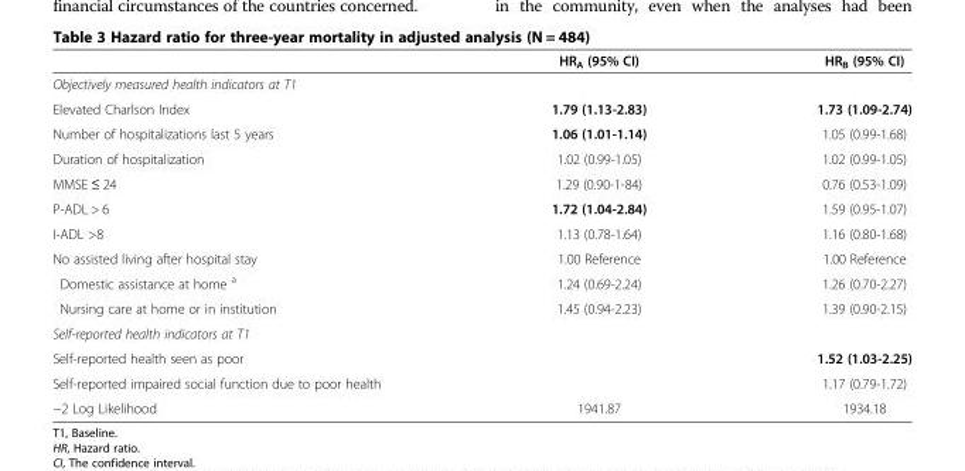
<table><thead><tr><td></td><td>HR<sub>A</sub> (95% CI)</td><td>HR<sub>B</sub> (95% CI)</td></tr></thead><tbody><tr><td colspan="3">Objectively measured health indicators at T1</td></tr><tr><td>Elevated Charlson Index</td><td>1.79 (1.13-2.83)</td><td>1.73 (1.09-2.74)</td></tr><tr><td>Number of hospitalizations last 5 years</td><td>1.06 (1.01-1.14)</td><td>1.05 (0.99-1.68)</td></tr><tr><td>Duration of hospitalization</td><td>1.02 (0.99-1.05)</td><td>1.02 (0.99-1.05)</td></tr><tr><td>MMSE ≤ 24</td><td>1.29 (0.90-1-84)</td><td>0.76 (0.53-1.09)</td></tr><tr><td>P-ADL &gt; 6</td><td>1.72 (1.04-2.84)</td><td>1.59 (0.95-1.07)</td></tr><tr><td>I-ADL &gt;8</td><td>1.13 (0.78-1.64)</td><td>1.16 (0.80-1.68)</td></tr><tr><td>No assisted living after hospital stay</td><td>1.00 Reference</td><td>1.00 Reference</td></tr><tr><td>Domestic assistance at home <sup>a</sup></td><td>1.24 (0.69-2.24)</td><td>1.26 (0.70-2.27)</td></tr><tr><td>Nursing care at home or in institution</td><td>1.45 (0.94-2.23)</td><td>1.39 (0.90-2.15)</td></tr><tr><td colspan="3">Self-reported health indicators at T1</td></tr><tr><td>Self-reported health seen as poor</td><td></td><td>1.52 (1.03-2.25)</td></tr><tr><td>Self-reported impaired social function due to poor health</td><td></td><td>1.17 (0.79-1.72)</td></tr><tr><td>−2 Log Likelihood</td><td>1941.87</td><td>1934.18</td></tr></tbody></table>